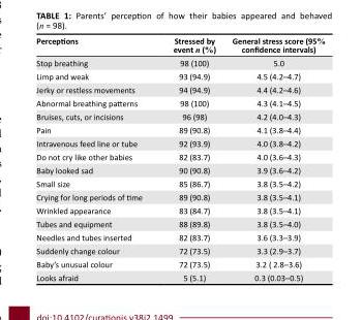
<table><thead><tr><td>Perceptions</td><td>Stressed by event n (%)</td><td>General stress score (95% confidence intervals)</td></tr></thead><tbody><tr><td>Stop breathing</td><td>98 (100)</td><td>5.0</td></tr><tr><td>Limp and weak</td><td>93 (94.9)</td><td>4.5 (4.2–4.7)</td></tr><tr><td>Jerky or restless movements</td><td>94 (94.9)</td><td>4.4 (4.2–4.6)</td></tr><tr><td>Abnormal breathing patterns</td><td>98 (100)</td><td>4.3 (4.1–4.5)</td></tr><tr><td>Bruises, cuts, or incisions</td><td>96 (98)</td><td>4.2 (4.0–4.3)</td></tr><tr><td>Pain</td><td>89 (90.8)</td><td>4.1 (3.8–4.4)</td></tr><tr><td>Intravenous feed line or tube</td><td>92 (93.9)</td><td>4.0 (3.8–4.2)</td></tr><tr><td>Do not cry like other babies</td><td>82 (83.7)</td><td>4.0 (3.6–4.3)</td></tr><tr><td>Baby looked sad</td><td>90 (90.8)</td><td>3.9 (3.6–4.2)</td></tr><tr><td>Small size</td><td>85 (86.7)</td><td>3.8 (3.5–4.2)</td></tr><tr><td>Crying for long periods of time</td><td>89 (90.8)</td><td>3.8 (3.5–4.1)</td></tr><tr><td>Wrinkled appearance</td><td>83 (84.7)</td><td>3.8 (3.5–4.1)</td></tr><tr><td>Tubes and equipment</td><td>88 (89.8)</td><td>3.8 (3.5–4.0)</td></tr><tr><td>Needles and tubes inserted</td><td>82 (83.7)</td><td>3.6 (3.3–3.9)</td></tr><tr><td>Suddenly change colour</td><td>72 (73.5)</td><td>3.3 (2.9–3.7)</td></tr><tr><td>Baby’s unusual colour</td><td>72 (73.5)</td><td>3.2 ( 2.8–3.6)</td></tr><tr><td>Looks afraid</td><td>5 (5.1)</td><td>0.3 (0.03–0.5)</td></tr></tbody></table>